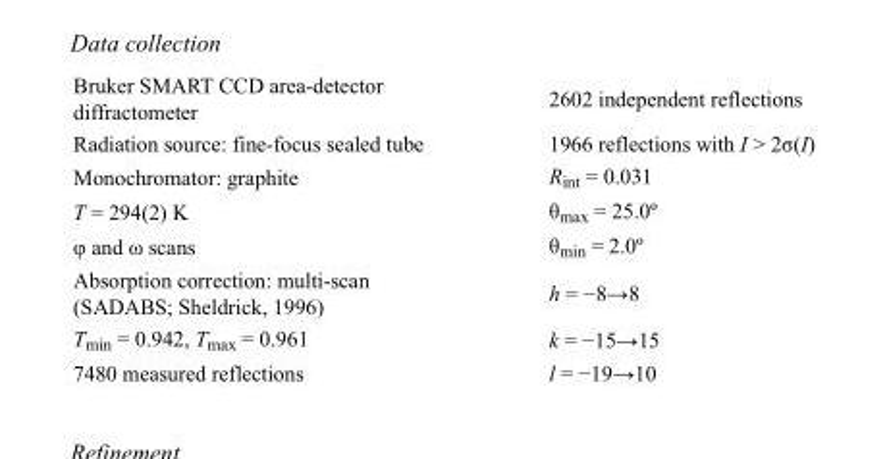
<table><tbody><tr><td>Bruker SMART CCD area-detector diffractometer</td><td>2602 independent reflections</td></tr><tr><td>Radiation source: fine-focus sealed tube</td><td>1966 reflections with I &gt; 2σ(I)</td></tr><tr><td>Monochromator: graphite</td><td>R<sub>int</sub> = 0.031</td></tr><tr><td>T = 294(2) K</td><td>θ<sub>max</sub> = 25.0º</td></tr><tr><td>φ and ω scans</td><td>θ<sub>min</sub> = 2.0º</td></tr><tr><td>Absorption correction: multi-scan (SADABS; Sheldrick, 1996)</td><td>h = −8→8</td></tr><tr><td>T<sub>min</sub> = 0.942, T<sub>max</sub> = 0.961</td><td>k = −15→15</td></tr><tr><td>7480 measured reflections</td><td>l = −19→10</td></tr></tbody></table>